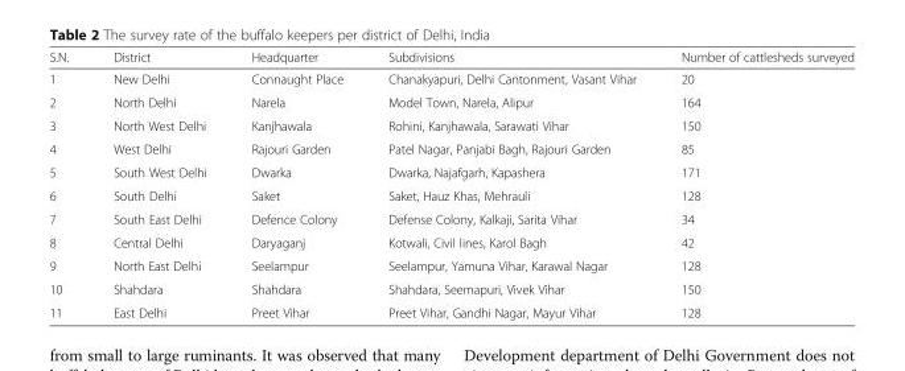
<table><thead><tr><td>S.N.</td><td>District</td><td>Headquarter</td><td>Subdivisions</td><td>Number of cattlesheds surveyed</td></tr></thead><tbody><tr><td>1</td><td>New Delhi</td><td>Connaught Place</td><td>Chanakyapuri, Delhi Cantonment, Vasant Vihar</td><td>20</td></tr><tr><td>2</td><td>North Delhi</td><td>Narela</td><td>Model Town, Narela, Alipur</td><td>164</td></tr><tr><td>3</td><td>North West Delhi</td><td>Kanjhawala</td><td>Rohini, Kanjhawala, Sarawati Vihar</td><td>150</td></tr><tr><td>4</td><td>West Delhi</td><td>Rajouri Garden</td><td>Patel Nagar, Panjabi Bagh, Rajouri Garden</td><td>85</td></tr><tr><td>5</td><td>South West Delhi</td><td>Dwarka</td><td>Dwarka, Najafgarh, Kapashera</td><td>171</td></tr><tr><td>6</td><td>South Delhi</td><td>Saket</td><td>Saket, Hauz Khas, Mehrauli</td><td>128</td></tr><tr><td>7</td><td>South East Delhi</td><td>Defence Colony</td><td>Defense Colony, Kalkaji, Sarita Vihar</td><td>34</td></tr><tr><td>8</td><td>Central Delhi</td><td>Daryaganj</td><td>Kotwali, Civil lines, Karol Bagh</td><td>42</td></tr><tr><td>9</td><td>North East Delhi</td><td>Seelampur</td><td>Seelampur, Yamuna Vihar, Karawal Nagar</td><td>128</td></tr><tr><td>10</td><td>Shahdara</td><td>Shahdara</td><td>Shahdara, Seemapuri, Vivek Vihar</td><td>150</td></tr><tr><td>11</td><td>East Delhi</td><td>Preet Vihar</td><td>Preet Vihar, Gandhi Nagar, Mayur Vihar</td><td>128</td></tr></tbody></table>